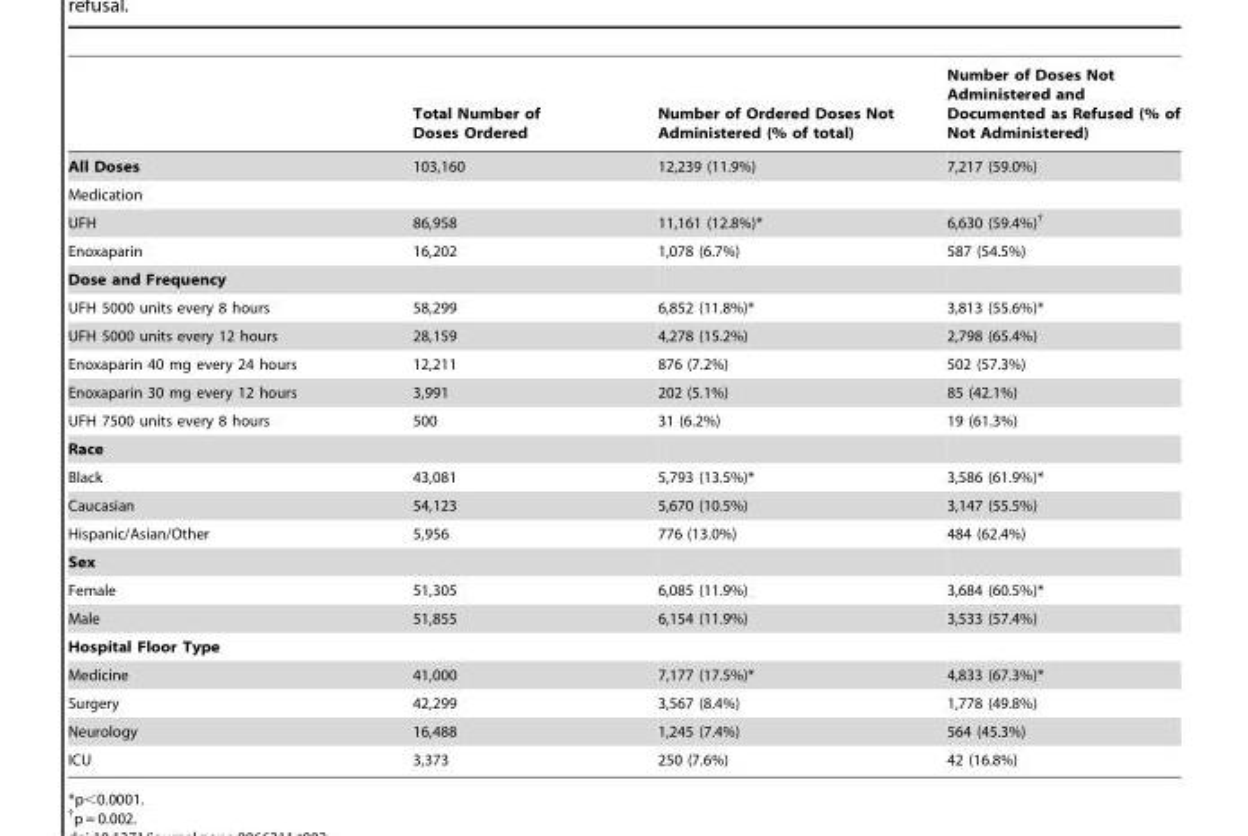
<table><thead><tr><td></td><td>Total Number of Doses Ordered</td><td>Number of Ordered Doses Not Administered (% of total)</td><td>Number of Doses Not Administered and Documented as Refused (% of Not Administered)</td></tr></thead><tbody><tr><td>All Doses</td><td>103,160</td><td>12,239 (11.9%)</td><td>7,217 (59.0%)</td></tr><tr><td colspan="4">Medication</td></tr><tr><td>UFH</td><td>86,958</td><td>11,161 (12.8%)*</td><td>6,630 (59.4%)†</td></tr><tr><td>Enoxaparin</td><td>16,202</td><td>1,078 (6.7%)</td><td>587 (54.5%)</td></tr><tr><td colspan="4">Dose and Frequency</td></tr><tr><td>UFH 5000 units every 8 hours</td><td>58,299</td><td>6,852 (11.8%)*</td><td>3,813 (55.6%)*</td></tr><tr><td>UFH 5000 units every 12 hours</td><td>28,159</td><td>4,278 (15.2%)</td><td>2,798 (65.4%)</td></tr><tr><td>Enoxaparin 40 mg every 24 hours</td><td>12,211</td><td>876 (7.2%)</td><td>502 (57.3%)</td></tr><tr><td>Enoxaparin 30 mg every 12 hours</td><td>3,991</td><td>202 (5.1%)</td><td>85 (42.1%)</td></tr><tr><td>UFH 7500 units every 8 hours</td><td>500</td><td>31 (6.2%)</td><td>19 (61.3%)</td></tr><tr><td colspan="4">Race</td></tr><tr><td>Black</td><td>43,081</td><td>5,793 (13.5%)*</td><td>3,586 (61.9%)*</td></tr><tr><td>Caucasian</td><td>54,123</td><td>5,670 (10.5%)</td><td>3,147 (55.5%)</td></tr><tr><td>Hispanic/Asian/Other</td><td>5,956</td><td>776 (13.0%)</td><td>484 (62.4%)</td></tr><tr><td colspan="4">Sex</td></tr><tr><td>Female</td><td>51,305</td><td>6,085 (11.9%)</td><td>3,684 (60.5%)*</td></tr><tr><td>Male</td><td>51,855</td><td>6,154 (11.9%)</td><td>3,533 (57.4%)</td></tr><tr><td colspan="4">Hospital Floor Type</td></tr><tr><td>Medicine</td><td>41,000</td><td>7,177 (17.5%)*</td><td>4,833 (67.3%)*</td></tr><tr><td>Surgery</td><td>42,299</td><td>3,567 (8.4%)</td><td>1,778 (49.8%)</td></tr><tr><td>Neurology</td><td>16,488</td><td>1,245 (7.4%)</td><td>564 (45.3%)</td></tr><tr><td>ICU</td><td>3,373</td><td>250 (7.6%)</td><td>42 (16.8%)</td></tr></tbody></table>